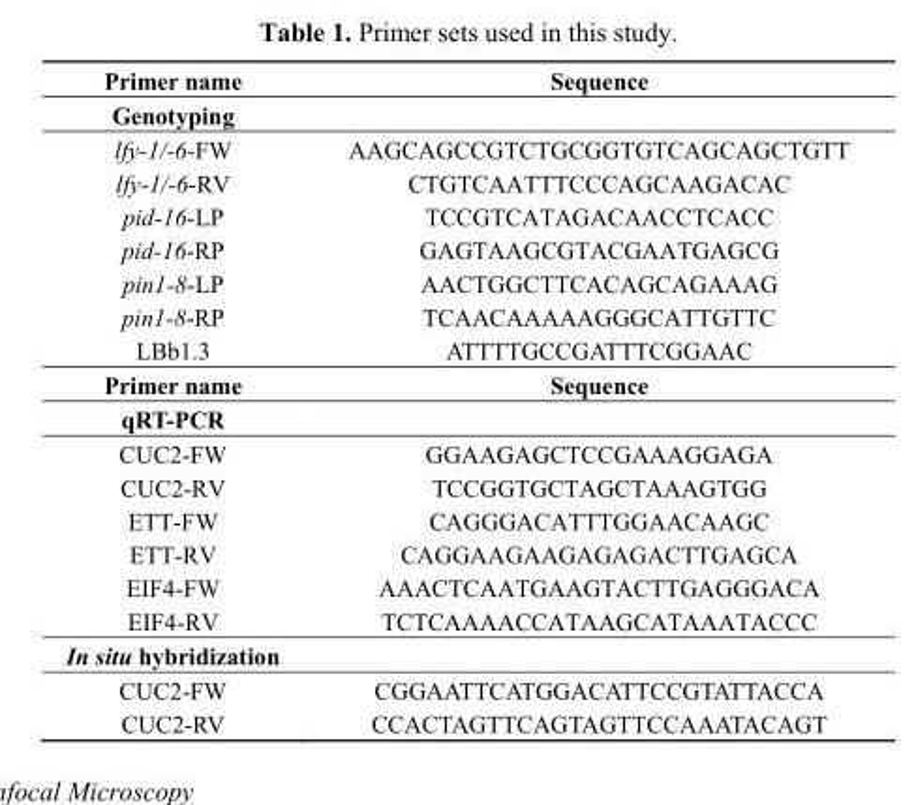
<table><thead><tr><td>Primer name</td><td>Sequence</td></tr></thead><tbody><tr><td colspan="2">Genotyping</td></tr><tr><td>lfy-1/-6-FW</td><td>AAGCAGCCGTCTGCGGTGTCAGCAGCTGTT</td></tr><tr><td>lfy-1/-6-RV</td><td>CTGTCAATTTCCCAGCAAGACAC</td></tr><tr><td>pid-16-LP</td><td>TCCGTCATAGACAACCTCACC</td></tr><tr><td>pid-16-RP</td><td>GAGTAAGCGTACGAATGAGCG</td></tr><tr><td>pin1-8-LP</td><td>AACTGGCTTCACAGCAGAAAG</td></tr><tr><td>pin1-8-RP</td><td>TCAACAAAAAGGGCATTGTTC</td></tr><tr><td>LBb1.3</td><td>ATTTTGCCGATTTCGGAAC</td></tr><tr><td>Primer name</td><td>Sequence</td></tr><tr><td colspan="2">qRT-PCR</td></tr><tr><td>CUC2-FW</td><td>GGAAGAGCTCCGAAAGGAGA</td></tr><tr><td>CUC2-RV</td><td>TCCGGTGCTAGCTAAAGTGG</td></tr><tr><td>ETT-FW</td><td>CAGGGACATTTGGAACAAGC</td></tr><tr><td>ETT-RV</td><td>CAGGAAGAAGAGAGACTTGAGCA</td></tr><tr><td>EIF4-FW</td><td>AAACTCAATGAAGTACTTGAGGGACA</td></tr><tr><td>EIF4-RV</td><td>TCTCAAAACCATAAGCATAAATACCC</td></tr><tr><td colspan="2">In situ hybridization</td></tr><tr><td>CUC2-FW</td><td>CGGAATTCATGGACATTCCGTATTACCA</td></tr><tr><td>CUC2-RV</td><td>CCACTAGTTCAGTAGTTCCAAATACAGT</td></tr></tbody></table>